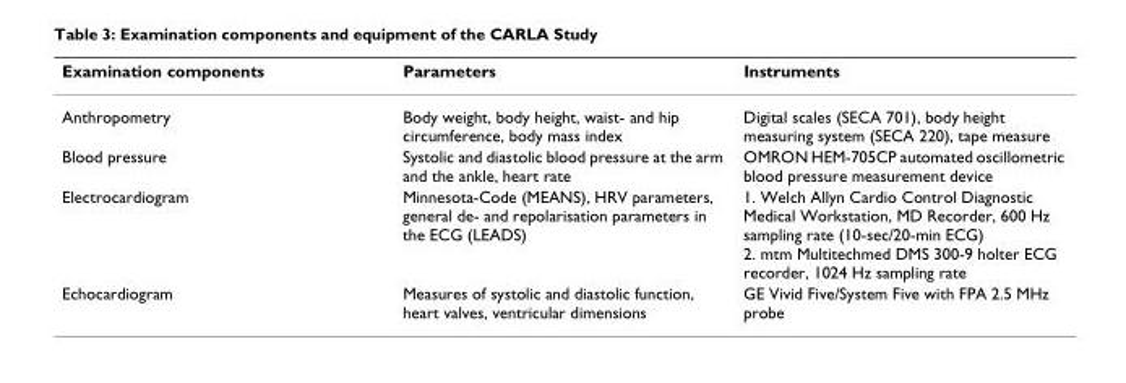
<table><thead><tr><td>Examination components</td><td>Parameters</td><td>Instruments</td></tr></thead><tbody><tr><td>Anthropometry</td><td>Body weight, body height, waist- and hip circumference, body mass index</td><td>Digital scales (SECA 701), body height measuring system (SECA 220), tape measure</td></tr><tr><td>Blood pressure</td><td>Systolic and diastolic blood pressure at the arm and the ankle, heart rate</td><td>OMRON HEM-705CP automated oscillometric blood pressure measurement device</td></tr><tr><td>Electrocardiogram</td><td>Minnesota-Code (MEANS), HRV parameters, general de- and repolarisation parameters in the ECG (LEADS)</td><td>1. Welch Allyn Cardio Control Diagnostic Medical Workstation, MD Recorder, 600 Hz sampling rate (10-sec/20-min ECG) 2. mtm Multitechmed DMS 300-9 holter ECG recorder, 1024 Hz sampling rate</td></tr><tr><td>Echocardiogram</td><td>Measures of systolic and diastolic function, heart valves, ventricular dimensions</td><td>GE Vivid Five/System Five with FPA 2.5 MHz probe</td></tr></tbody></table>